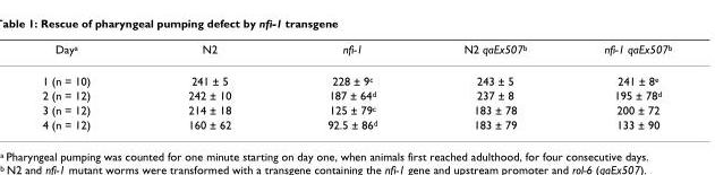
<table><thead><tr><td>Day<sup>a</sup></td><td>N2</td><td>nfi-1</td><td>N2 qaEx507<sup>b</sup></td><td>nfi-1 qaEx507<sup>b</sup></td></tr></thead><tbody><tr><td>1 (n = 10)</td><td>241 ± 5</td><td>228 ± 9<sup>c</sup></td><td>243 ± 5</td><td>241 ± 8<sup>e</sup></td></tr><tr><td>2 (n = 12)</td><td>242 ± 10</td><td>187 ± 64<sup>d</sup></td><td>237 ± 8</td><td>195 ± 78<sup>d</sup></td></tr><tr><td>3 (n = 12)</td><td>214 ± 18</td><td>125 ± 79<sup>c</sup></td><td>183 ± 78</td><td>200 ± 72</td></tr><tr><td>4 (n = 12)</td><td>160 ± 62</td><td>92.5 ± 86<sup>d</sup></td><td>183 ± 79</td><td>133 ± 90</td></tr></tbody></table>